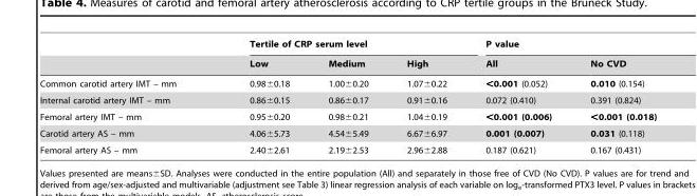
<table><thead><tr><td rowspan="2"></td><td colspan="3">Tertile of CRP serum level</td><td colspan="2">P value</td></tr><tr><td>Low</td><td>Medium</td><td>High</td><td>All</td><td>No CVD</td></tr></thead><tbody><tr><td>Common carotid artery IMT – mm</td><td>0.98±0.18</td><td>1.00±0.20</td><td>1.07±0.22</td><td>&lt;0.001 (0.052)</td><td>0.010 (0.154)</td></tr><tr><td>Internal carotid artery IMT – mm</td><td>0.86±0.15</td><td>0.86±0.17</td><td>0.91±0.16</td><td>0.072 (0.410)</td><td>0.391 (0.824)</td></tr><tr><td>Femoral artery IMT – mm</td><td>0.95±0.20</td><td>0.98±0.21</td><td>1.04±0.19</td><td>&lt;0.001 (0.006)</td><td>&lt;0.001 (0.018)</td></tr><tr><td>Carotid artery AS – mm</td><td>4.06±5.73</td><td>4.54±5.49</td><td>6.67±6.97</td><td>0.001 (0.007)</td><td>0.031 (0.118)</td></tr><tr><td>Femoral artery AS – mm</td><td>2.40±2.61</td><td>2.19±2.53</td><td>2.96±2.88</td><td>0.187 (0.621)</td><td>0.167 (0.431)</td></tr></tbody></table>